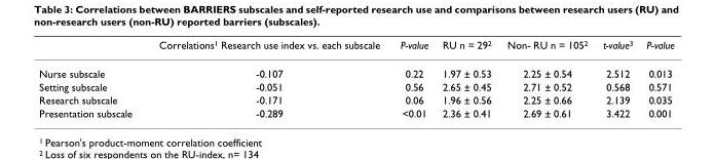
<table><thead><tr><td></td><td>Correlations<sup>1</sup> Research use index vs. each subscale</td><td>P-value</td><td>RU n = 29<sup>2</sup></td><td>Non- RU n = 105<sup>2</sup></td><td>t-value<sup>3</sup></td><td>P-value</td></tr></thead><tbody><tr><td>Nurse subscale</td><td>-0.107</td><td>0.22</td><td>1.97 ± 0.53</td><td>2.25 ± 0.54</td><td>2.512</td><td>0.013</td></tr><tr><td>Setting subscale</td><td>-0.051</td><td>0.56</td><td>2.65 ± 0.45</td><td>2.71 ± 0.52</td><td>0.568</td><td>0.571</td></tr><tr><td>Research subscale</td><td>-0.171</td><td>0.06</td><td>1.96 ± 0.56</td><td>2.25 ± 0.66</td><td>2.139</td><td>0.035</td></tr><tr><td>Presentation subscale</td><td>-0.289</td><td>&lt;0.01</td><td>2.36 ± 0.41</td><td>2.69 ± 0.61</td><td>3.422</td><td>0.001</td></tr></tbody></table>